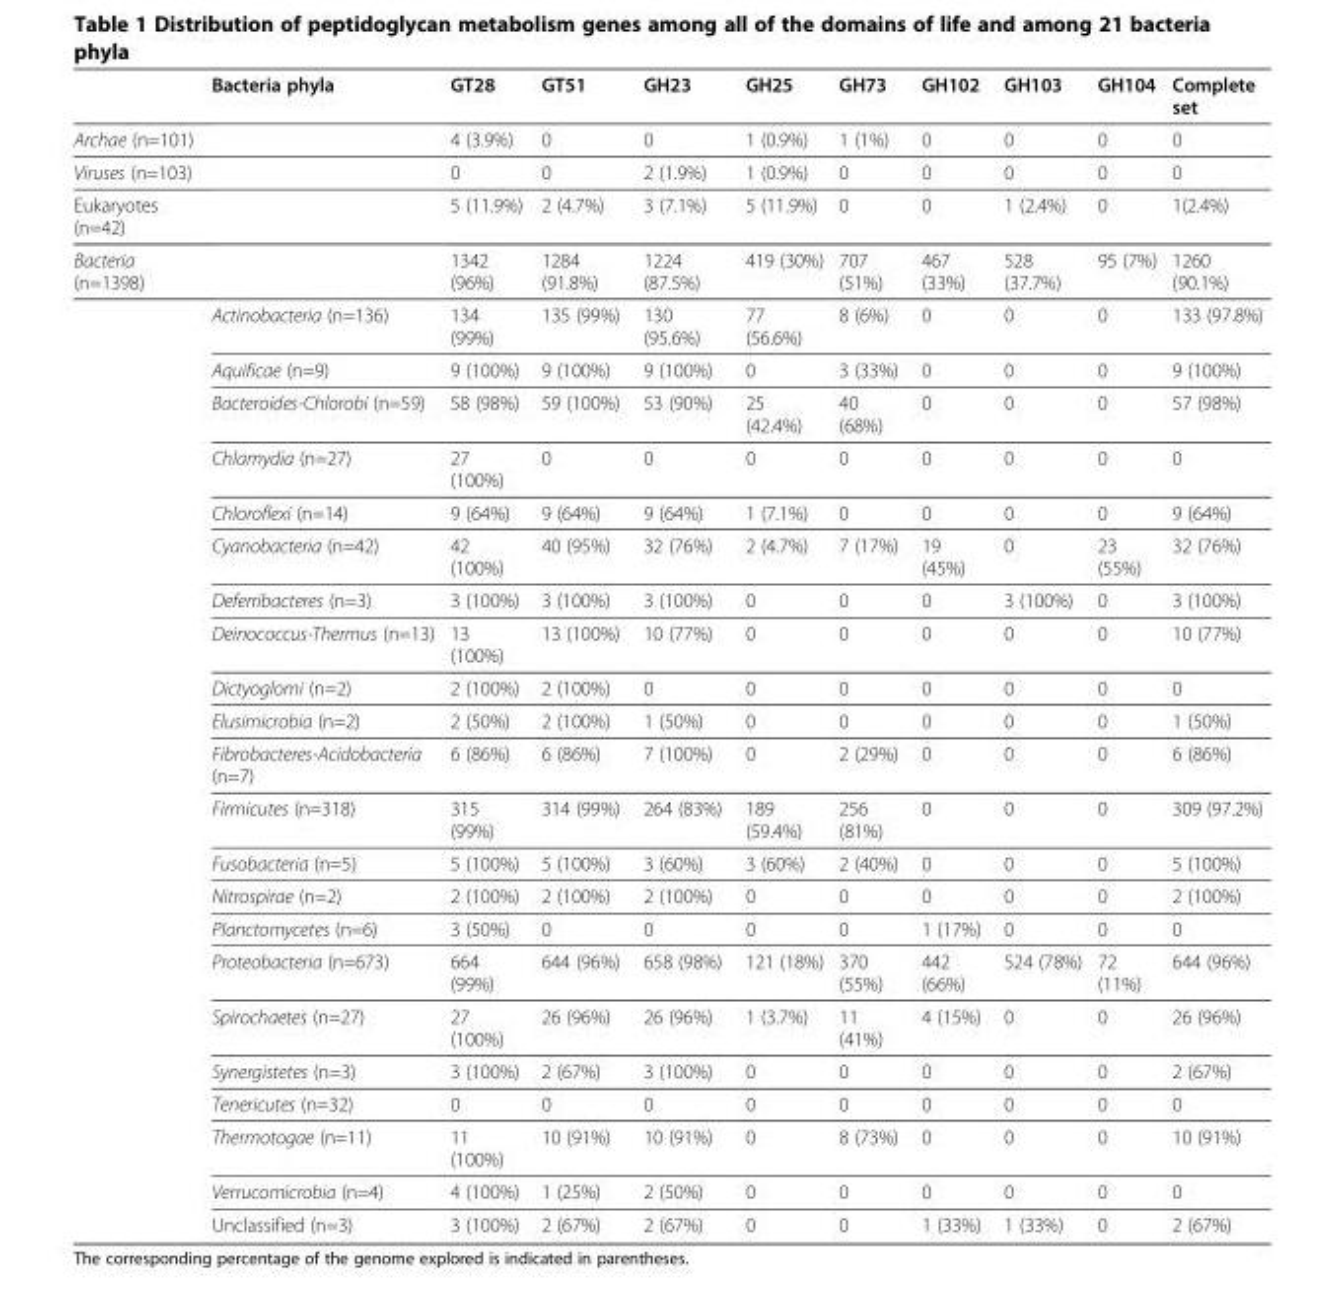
<table><thead><tr><td></td><td>Bacteria phyla</td><td>GT28</td><td>GT51</td><td>GH23</td><td>GH25</td><td>GH73</td><td>GH102</td><td>GH103</td><td>GH104</td><td>Complete set</td></tr></thead><tbody><tr><td>Archae (n=101)</td><td></td><td>4 (3.9%)</td><td>0</td><td>0</td><td>1 (0.9%)</td><td>1 (1%)</td><td>0</td><td>0</td><td>0</td><td>0</td></tr><tr><td>Viruses (n=103)</td><td></td><td>0</td><td>0</td><td>2 (1.9%)</td><td>1 (0.9%)</td><td>0</td><td>0</td><td>0</td><td>0</td><td>0</td></tr><tr><td>Eukaryotes (n=42)</td><td></td><td>5 (11.9%)</td><td>2 (4.7%)</td><td>3 (7.1%)</td><td>5 (11.9%)</td><td>0</td><td>0</td><td>1 (2.4%)</td><td>0</td><td>1(2.4%)</td></tr><tr><td rowspan="23">Bacteria (n=1398)</td><td></td><td>1342 (96%)</td><td>1284 (91.8%)</td><td>1224 (87.5%)</td><td>419 (30%)</td><td>707 (51%)</td><td>467 (33%)</td><td>528 (37.7%)</td><td>95 (7%)</td><td>1260 (90.1%)</td></tr><tr><td>Actinobacteria (n=136)</td><td>134 (99%)</td><td>135 (99%)</td><td>130 (95.6%)</td><td>77 (56.6%)</td><td>8 (6%)</td><td>0</td><td>0</td><td>0</td><td>133 (97.8%)</td></tr><tr><td>Aquificae (n=9)</td><td>9 (100%)</td><td>9 (100%)</td><td>9 (100%)</td><td>0</td><td>3 (33%)</td><td>0</td><td>0</td><td>0</td><td>9 (100%)</td></tr><tr><td>Bacteroides-Chlorobi (n=59)</td><td>58 (98%)</td><td>59 (100%)</td><td>53 (90%)</td><td>25 (42.4%)</td><td>40 (68%)</td><td>0</td><td>0</td><td>0</td><td>57 (98%)</td></tr><tr><td>Chlamydia (n=27)</td><td>27 (100%)</td><td>0</td><td>0</td><td>0</td><td>0</td><td>0</td><td>0</td><td>0</td><td>0</td></tr><tr><td>Chloroflexi (n=14)</td><td>9 (64%)</td><td>9 (64%)</td><td>9 (64%)</td><td>1 (7.1%)</td><td>0</td><td>0</td><td>0</td><td>0</td><td>9 (64%)</td></tr><tr><td>Cyanobacteria (n=42)</td><td>42 (100%)</td><td>40 (95%)</td><td>32 (76%)</td><td>2 (4.7%)</td><td>7 (17%)</td><td>19 (45%)</td><td>0</td><td>23 (55%)</td><td>32 (76%)</td></tr><tr><td>Deferribacteres (n=3)</td><td>3 (100%)</td><td>3 (100%)</td><td>3 (100%)</td><td>0</td><td>0</td><td>0</td><td>3 (100%)</td><td>0</td><td>3 (100%)</td></tr><tr><td>Deinococcus-Thermus (n=13)</td><td>13 (100%)</td><td>13 (100%)</td><td>10 (77%)</td><td>0</td><td>0</td><td>0</td><td>0</td><td>0</td><td>10 (77%)</td></tr><tr><td>Dictyoglomi (n=2)</td><td>2 (100%)</td><td>2 (100%)</td><td>0</td><td>0</td><td>0</td><td>0</td><td>0</td><td>0</td><td>0</td></tr><tr><td>Elusimicrobia (n=2)</td><td>2 (50%)</td><td>2 (100%)</td><td>1 (50%)</td><td>0</td><td>0</td><td>0</td><td>0</td><td>0</td><td>1 (50%)</td></tr><tr><td>Fibrobacteres-Acidobacteria (n=7)</td><td>6 (86%)</td><td>6 (86%)</td><td>7 (100%)</td><td>0</td><td>2 (29%)</td><td>0</td><td>0</td><td>0</td><td>6 (86%)</td></tr><tr><td>Firmicutes (n=318)</td><td>315 (99%)</td><td>314 (99%)</td><td>264 (83%)</td><td>189 (59.4%)</td><td>256 (81%)</td><td>0</td><td>0</td><td>0</td><td>309 (97.2%)</td></tr><tr><td>Fusobacteria (n=5)</td><td>5 (100%)</td><td>5 (100%)</td><td>3 (60%)</td><td>3 (60%)</td><td>2 (40%)</td><td>0</td><td>0</td><td>0</td><td>5 (100%)</td></tr><tr><td>Nitrospirae (n=2)</td><td>2 (100%)</td><td>2 (100%)</td><td>2 (100%)</td><td>0</td><td>0</td><td>0</td><td>0</td><td>0</td><td>2 (100%)</td></tr><tr><td>Planctomycetes (n=6)</td><td>3 (50%)</td><td>0</td><td>0</td><td>0</td><td>0</td><td>1 (17%)</td><td>0</td><td>0</td><td>0</td></tr><tr><td>Proteobacteria (n=673)</td><td>664 (99%)</td><td>644 (96%)</td><td>658 (98%)</td><td>121 (18%)</td><td>370 (55%)</td><td>442 (66%)</td><td>524 (78%)</td><td>72 (11%)</td><td>644 (96%)</td></tr><tr><td>Spirochaetes (n=27)</td><td>27 (100%)</td><td>26 (96%)</td><td>26 (96%)</td><td>1 (3.7%)</td><td>11 (41%)</td><td>4 (15%)</td><td>0</td><td>0</td><td>26 (96%)</td></tr><tr><td>Synergistetes (n=3)</td><td>3 (100%)</td><td>2 (67%)</td><td>3 (100%)</td><td>0</td><td>0</td><td>0</td><td>0</td><td>0</td><td>2 (67%)</td></tr><tr><td>Tenericutes (n=32)</td><td>0</td><td>0</td><td>0</td><td>0</td><td>0</td><td>0</td><td>0</td><td>0</td><td>0</td></tr><tr><td>Thermotogae (n=11)</td><td>11 (100%)</td><td>10 (91%)</td><td>10 (91%)</td><td>0</td><td>8 (73%)</td><td>0</td><td>0</td><td>0</td><td>10 (91%)</td></tr><tr><td>Verrucomicrobia (n=4)</td><td>4 (100%)</td><td>1 (25%)</td><td>2 (50%)</td><td>0</td><td>0</td><td>0</td><td>0</td><td>0</td><td>0</td></tr><tr><td>Unclassified (n=3)</td><td>3 (100%)</td><td>2 (67%)</td><td>2 (67%)</td><td>0</td><td>0</td><td>1 (33%)</td><td>1 (33%)</td><td>0</td><td>2 (67%)</td></tr></tbody></table>